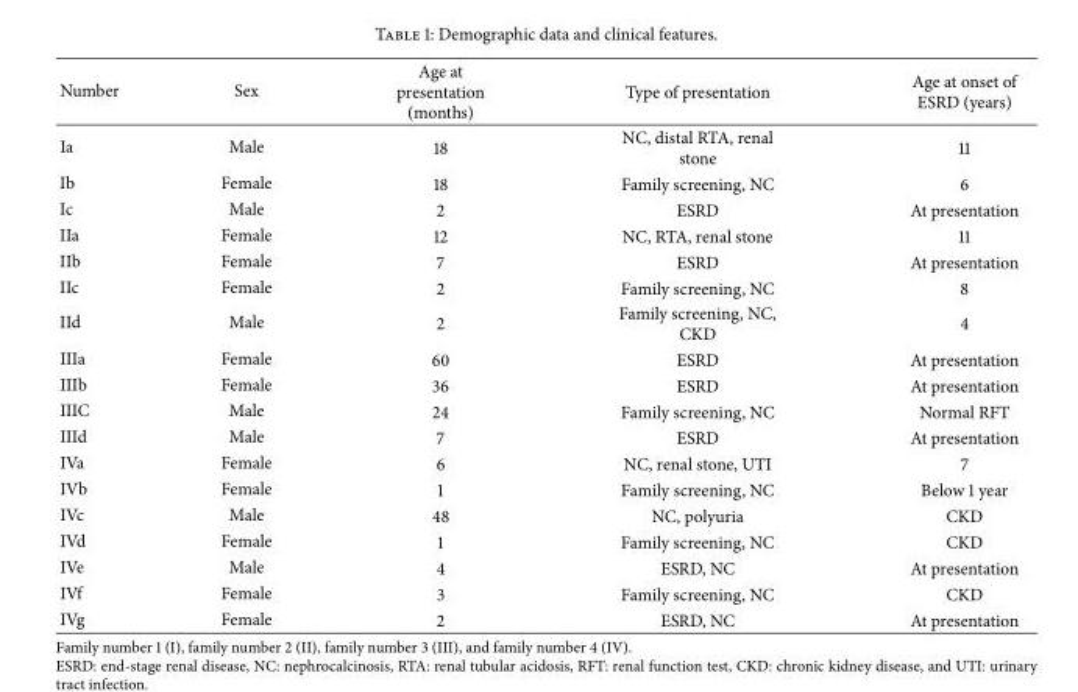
<table><tbody><tr><td>Number</td><td>Sex</td><td>Age at presentation (months)</td><td>Type of presentation</td><td>Age at onset of ESRD (years)</td></tr><tr><td>Ia</td><td>Male</td><td>18</td><td>NC, distal RTA, renal stone</td><td>11</td></tr><tr><td>Ib</td><td>Female</td><td>18</td><td>Family screening, NC</td><td>6</td></tr><tr><td>Ic</td><td>Male</td><td>2</td><td>ESRD</td><td>At presentation</td></tr><tr><td>IIa</td><td>Female</td><td>12</td><td>NC, RTA, renal stone</td><td>11</td></tr><tr><td>IIb</td><td>Female</td><td>7</td><td>ESRD</td><td>At presentation</td></tr><tr><td>IIc</td><td>Female</td><td>2</td><td>Family screening, NC</td><td>8</td></tr><tr><td>IId</td><td>Male</td><td>2</td><td>Family screening, NC, CKD</td><td>4</td></tr><tr><td>IIIa</td><td>Female</td><td>60</td><td>ESRD</td><td>At presentation</td></tr><tr><td>IIIb</td><td>Female</td><td>36</td><td>ESRD</td><td>At presentation</td></tr><tr><td>IIIC</td><td>Male</td><td>24</td><td>Family screening, NC</td><td>Normal RFT</td></tr><tr><td>IIId</td><td>Male</td><td>7</td><td>ESRD</td><td>At presentation</td></tr><tr><td>IVa</td><td>Female</td><td>6</td><td>NC, renal stone, UTI</td><td>7</td></tr><tr><td>IVb</td><td>Female</td><td>1</td><td>Family screening, NC</td><td>Below 1 year</td></tr><tr><td>IVc</td><td>Male</td><td>48</td><td>NC, polyuria</td><td>CKD</td></tr><tr><td>IVd</td><td>Female</td><td>1</td><td>Family screening, NC</td><td>CKD</td></tr><tr><td>IVe</td><td>Male</td><td>4</td><td>ESRD, NC</td><td>At presentation</td></tr><tr><td>IVf</td><td>Female</td><td>3</td><td>Family screening, NC</td><td>CKD</td></tr><tr><td>IVg</td><td>Female</td><td>2</td><td>ESRD, NC</td><td>At presentation</td></tr></tbody></table>